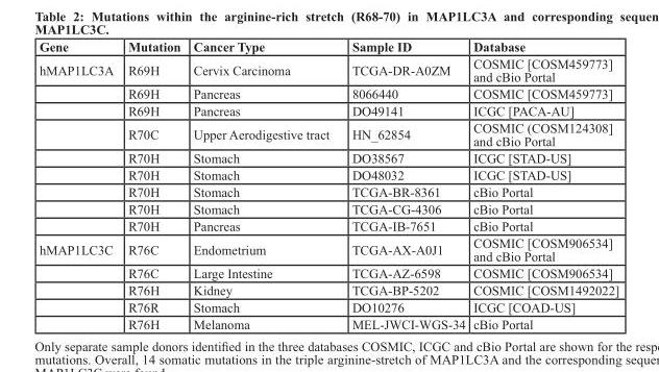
<table><thead><tr><td>Gene</td><td>Mutation</td><td>Cancer Type</td><td>sample ID</td><td>Database</td></tr></thead><tbody><tr><td rowspan="9">hMAP1LC3A</td><td>R69H</td><td>Cervix Carcinoma</td><td>TCGA-DR-A0ZM</td><td>COSMIC [COSM459773] and cBio Portal</td></tr><tr><td>R69H</td><td>Pancreas</td><td>8066440</td><td>COSMIC [COSM459773]</td></tr><tr><td>R69H</td><td>Pancreas</td><td>DO49141</td><td>ICGC [PACA-AU]</td></tr><tr><td>R70C</td><td>Upper Aerodigestive tract</td><td>HN_62854</td><td>COSMIC (COSM124308] and cBio Portal</td></tr><tr><td>R70H</td><td>Stomach</td><td>DO38567</td><td>ICGC [STAD-US]</td></tr><tr><td>R70H</td><td>Stomach</td><td>DO48032</td><td>ICGC [STAD-US]</td></tr><tr><td>R70H</td><td>Stomach</td><td>TCGA-BR-8361</td><td>cBio Portal</td></tr><tr><td>R70H</td><td>Stomach</td><td>TCGA-CG-4306</td><td>cBio Portal</td></tr><tr><td>R70H</td><td>Pancreas</td><td>TCGA-IB-7651</td><td>cBio Portal</td></tr><tr><td rowspan="5">hMAP1LC3C</td><td>R76C</td><td>Endometrium</td><td>TCGA-AX-A0J1</td><td>COSMIC [COSM906534] and cBio Portal</td></tr><tr><td>R76C</td><td>Large Intestine</td><td>TCGA-AZ-6598</td><td>COSMIC [COSM906534]</td></tr><tr><td>R76H</td><td>Kidney</td><td>TCGA-BP-5202</td><td>COSMIC [COSM1492022]</td></tr><tr><td>R76R</td><td>Stomach</td><td>DO10276</td><td>ICGC [COAD-US]</td></tr><tr><td>R76H</td><td>Melanoma</td><td>MEL-JWCI-WGS-34</td><td>cBio Portal</td></tr></tbody></table>